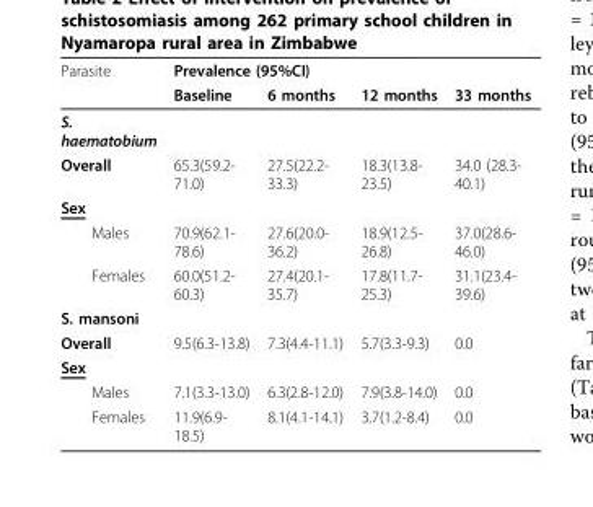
<table><thead><tr><td rowspan="2">Parasite</td><td colspan="4">Prevalence (95%CI)</td></tr><tr><td>Baseline</td><td>6 months</td><td>12 months</td><td>33 months</td></tr></thead><tbody><tr><td colspan="5">S. haematobium</td></tr><tr><td>Overall</td><td>65.3(59.2- 71.0)</td><td>27.5(22.2- 33.3)</td><td>18.3(13.8- 23.5)</td><td>34.0 (28.3- 40.1)</td></tr><tr><td colspan="5">Sex</td></tr><tr><td>Males</td><td>70.9(62.1- 78.6)</td><td>27.6(20.0- 36.2)</td><td>18.9(12.5- 26.8)</td><td>37.0(28.6- 46.0)</td></tr><tr><td>Females</td><td>60.0(51.2- 60.3)</td><td>27.4(20.1- 35.7)</td><td>17.8(11.7- 25.3)</td><td>31.1(23.4- 39.6)</td></tr><tr><td colspan="5">S. mansoni</td></tr><tr><td>Overall</td><td>9.5(6.3-13.8)</td><td>7.3(4.4-11.1)</td><td>5.7(3.3-9.3)</td><td>0.0</td></tr><tr><td colspan="5">Sex</td></tr><tr><td>Males</td><td>7.1(3.3-13.0)</td><td>6.3(2.8-12.0)</td><td>7.9(3.8-14.0)</td><td>0.0</td></tr><tr><td>Females</td><td>11.9(6.9- 18.5)</td><td>8.1(4.1-14.1)</td><td>3.7(1.2-8.4)</td><td>0.0</td></tr></tbody></table>